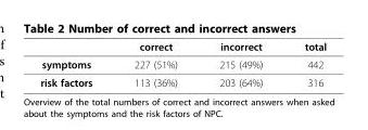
<table><thead><tr><td></td><td>correct</td><td>incorrect</td><td>total</td></tr></thead><tbody><tr><td>symptoms</td><td>227 (51%)</td><td>215 (49%)</td><td>442</td></tr><tr><td>risk factors</td><td>113 (36%)</td><td>203 (64%)</td><td>316</td></tr></tbody></table>